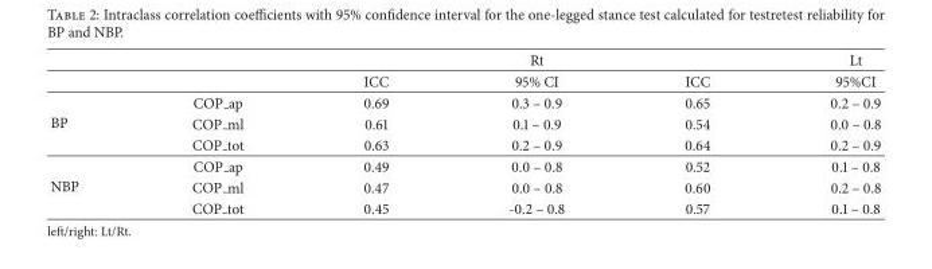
<table><thead><tr><td></td><td></td><td></td><td>Rt</td><td></td><td>Lt</td></tr></thead><tbody><tr><td></td><td></td><td>ICC</td><td>95% CI</td><td>ICC</td><td>95%CI</td></tr><tr><td rowspan="3">BP</td><td>COP ap</td><td>0.69</td><td>0.3 – 0.9</td><td>0.65</td><td>0.2 – 0.9</td></tr><tr><td>COP ml</td><td>0.61</td><td>0.1 – 0.9</td><td>0.54</td><td>0.0 – 0.8</td></tr><tr><td>COP tot</td><td>0.63</td><td>0.2 – 0.9</td><td>0.64</td><td>0.2 – 0.9</td></tr><tr><td rowspan="3">NBP</td><td>COP ap</td><td>0.49</td><td>0.0 – 0.8</td><td>0.52</td><td>0.1 – 0.8</td></tr><tr><td>COP ml</td><td>0.47</td><td>0.0 – 0.8</td><td>0.60</td><td>0.2 – 0.8</td></tr><tr><td>COP tot</td><td>0.45</td><td>-0.2 – 0.8</td><td>0.57</td><td>0.1 – 0.8</td></tr></tbody></table>